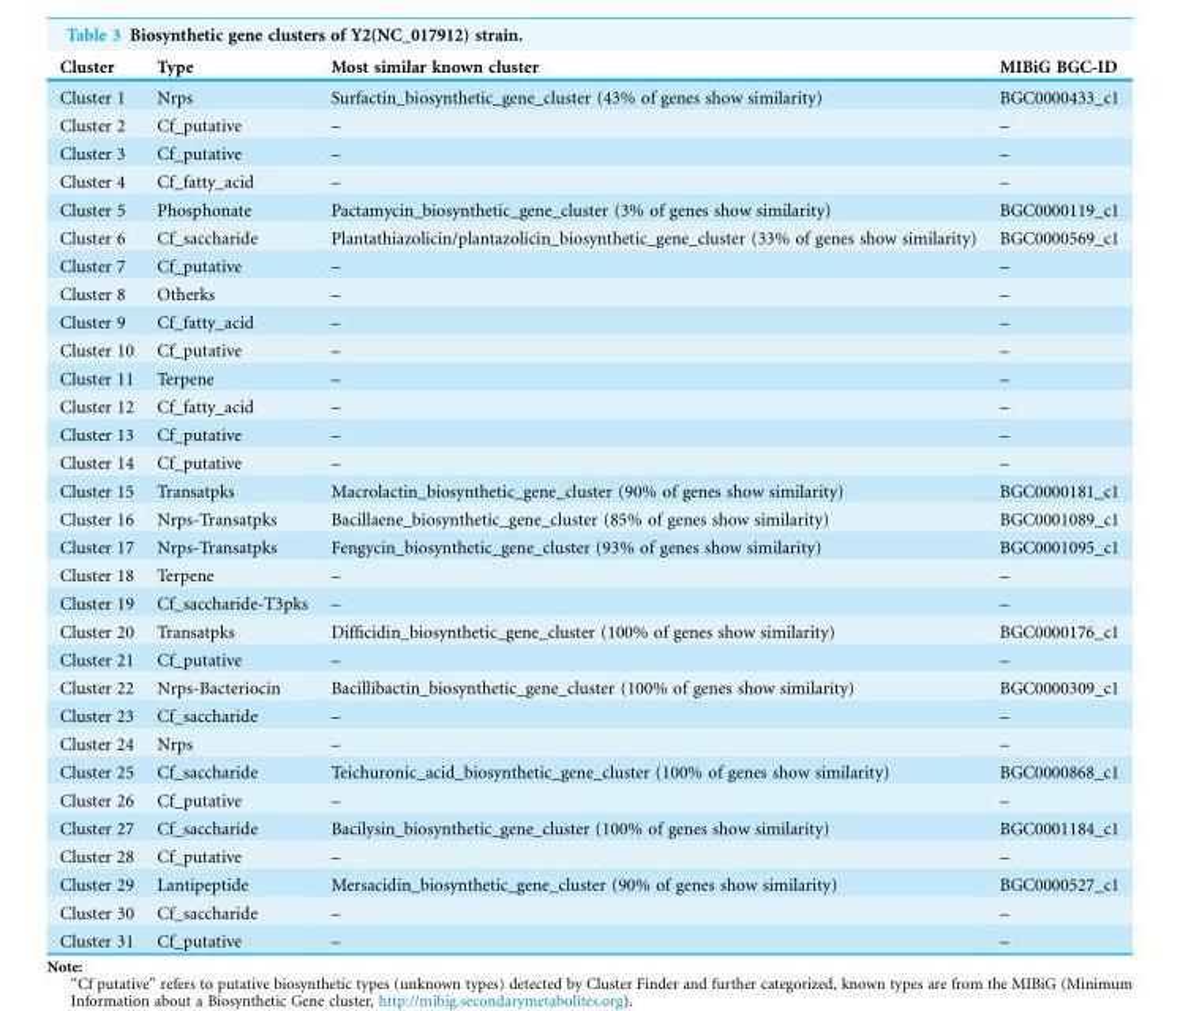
<table><thead><tr><td>Cluster</td><td>Type</td><td>Most similar known cluster</td><td>MIBiG BGC-ID</td></tr></thead><tbody><tr><td>Cluster 1</td><td>Nrps</td><td>Surfactin_biosynthetic_gene_cluster (43% of genes show similarity)</td><td>BGC0000433_c1</td></tr><tr><td>Cluster 2</td><td>Cf_putative</td><td>–</td><td>–</td></tr><tr><td>Cluster 3</td><td>Cf_putative</td><td>–</td><td>–</td></tr><tr><td>Cluster 4</td><td>Cf_fatty_acid</td><td>–</td><td>–</td></tr><tr><td>Cluster 5</td><td>Phosphonate</td><td>Pactamycin_biosynthetic_gene_cluster (3% of genes show similarity)</td><td>BGC0000119_c1</td></tr><tr><td>Cluster 6</td><td>Cf_saccharide</td><td>Plantathiazolicin/plantazolicin_biosynthetic_gene_cluster (33% of genes show similarity)</td><td>BGC0000569_c1</td></tr><tr><td>Cluster 7</td><td>Cf_putative</td><td>–</td><td>–</td></tr><tr><td>Cluster 8</td><td>Otherks</td><td>–</td><td>–</td></tr><tr><td>Cluster 9</td><td>Cf_fatty_acid</td><td>–</td><td>–</td></tr><tr><td>Cluster 10</td><td>Cf_putative</td><td>–</td><td>–</td></tr><tr><td>Cluster 11</td><td>Terpene</td><td>–</td><td>–</td></tr><tr><td>Cluster 12</td><td>Cf_fatty_acid</td><td>–</td><td>–</td></tr><tr><td>Cluster 13</td><td>Cf_putative</td><td>–</td><td>–</td></tr><tr><td>Cluster 14</td><td>Cf_putative</td><td>–</td><td>–</td></tr><tr><td>Cluster 15</td><td>Transatpks</td><td>Macrolactin_biosynthetic_gene_cluster (90% of genes show similarity)</td><td>BGC0000181_c1</td></tr><tr><td>Cluster 16</td><td>Nrps-Transatpks</td><td>Bacillaene_biosynthetic_gene_cluster (85% of genes show similarity)</td><td>BGC0001089_c1</td></tr><tr><td>Cluster 17</td><td>Nrps-Transatpks</td><td>Fengycin_biosynthetic_gene_cluster (93% of genes show similarity)</td><td>BGC0001095_c1</td></tr><tr><td>Cluster 18</td><td>Terpene</td><td>–</td><td>–</td></tr><tr><td>Cluster 19</td><td>Cf_saccharide-T3pks</td><td>–</td><td>–</td></tr><tr><td>Cluster 20</td><td>Transatpks</td><td>Difficidin_biosynthetic_gene_cluster (100% of genes show similarity)</td><td>BGC0000176_c1</td></tr><tr><td>Cluster 21</td><td>Cf_putative</td><td>–</td><td>–</td></tr><tr><td>Cluster 22</td><td>Nrps-Bacteriocin</td><td>Bacillibactin_biosynthetic_gene_cluster (100% of genes show similarity)</td><td>BGC0000309_c1</td></tr><tr><td>Cluster 23</td><td>Cf_saccharide</td><td>–</td><td>–</td></tr><tr><td>Cluster 24</td><td>Nrps</td><td>–</td><td>–</td></tr><tr><td>Cluster 25</td><td>Cf_saccharide</td><td>Teichuronic_acid_biosynthetic_gene_cluster (100% of genes show similarity)</td><td>BGC0000868_c1</td></tr><tr><td>Cluster 26</td><td>Cf_putative</td><td>–</td><td>–</td></tr><tr><td>Cluster 27</td><td>Cf_saccharide</td><td>Bacilysin_biosynthetic_gene_cluster (100% of genes show similarity)</td><td>BGC0001184_c1</td></tr><tr><td>Cluster 28</td><td>Cf_putative</td><td>–</td><td>–</td></tr><tr><td>Cluster 29</td><td>Lantipeptide</td><td>Mersacidin_biosynthetic_gene_cluster (90% of genes show similarity)</td><td>BGC0000527_c1</td></tr><tr><td>Cluster 30</td><td>Cf_saccharide</td><td>–</td><td>–</td></tr><tr><td>Cluster 31</td><td>Cf_putative</td><td>–</td><td>–</td></tr></tbody></table>